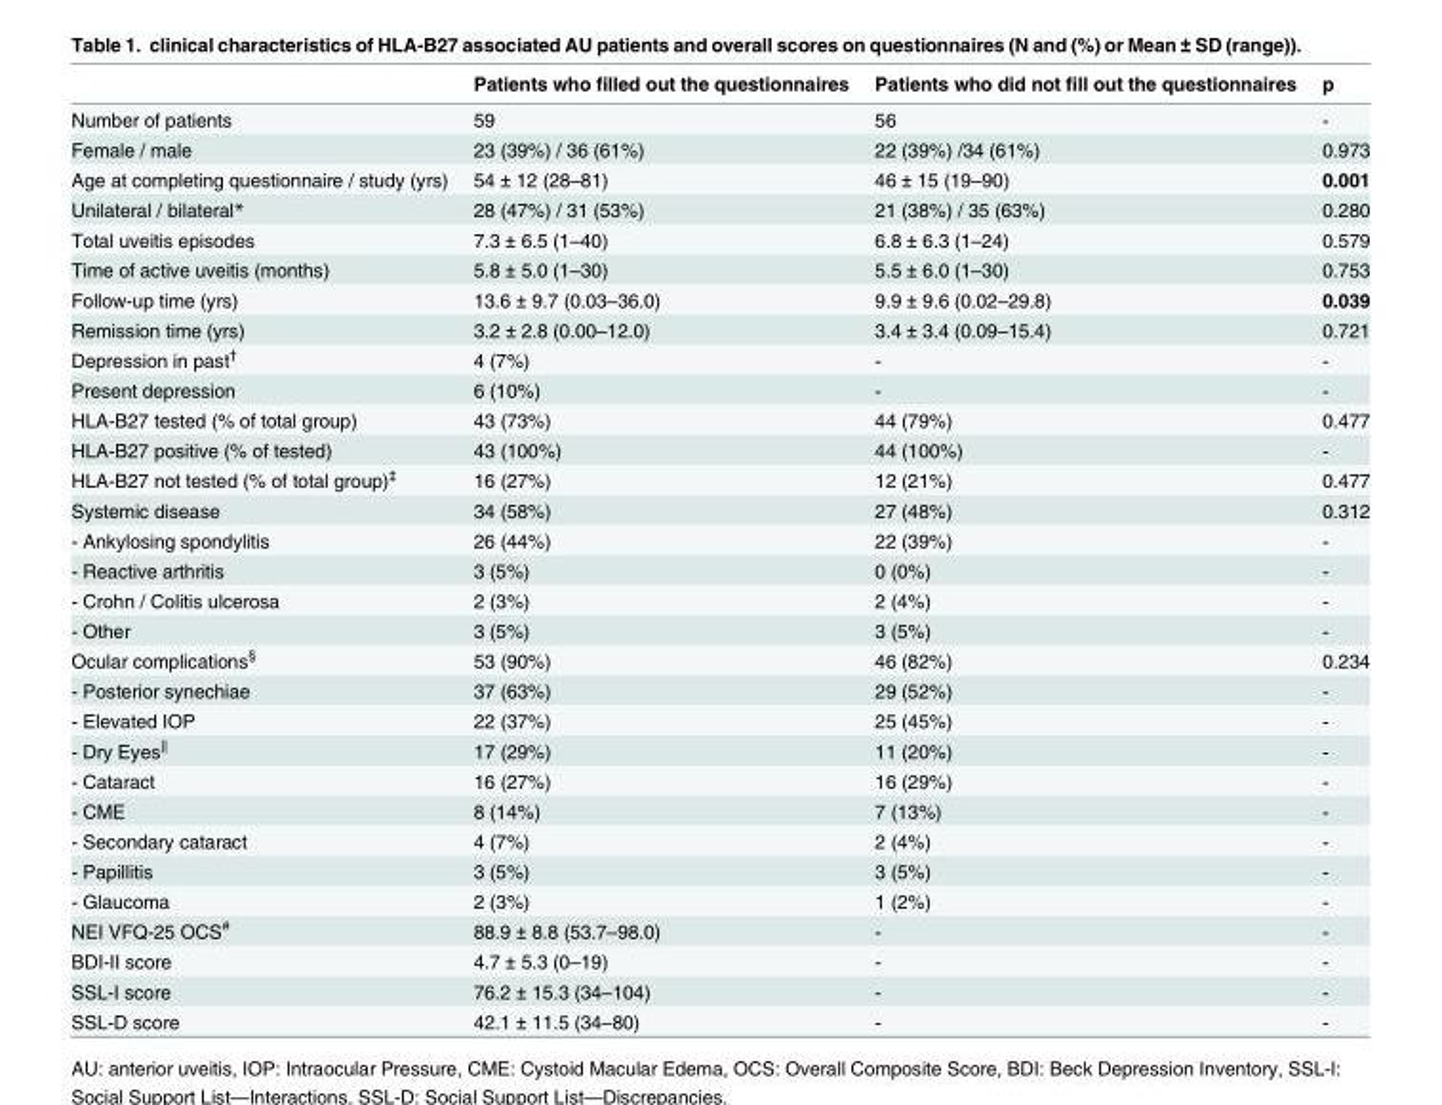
<table><thead><tr><td></td><td>Patients who filled out the questionnaires</td><td>Patients who did not fill out the questionnaires</td><td>p</td></tr></thead><tbody><tr><td>Number of patients</td><td>59</td><td>56</td><td>-</td></tr><tr><td>Female / male</td><td>23 (39%) / 36 (61%)</td><td>22 (39%) /34 (61%)</td><td>0.973</td></tr><tr><td>Age at completing questionnaire / study (yrs)</td><td>54 ± 12 (28–81)</td><td>46 ± 15 (19–90)</td><td>0.001</td></tr><tr><td>Unilateral / bilateral*</td><td>28 (47%) / 31 (53%)</td><td>21 (38%) / 35 (63%)</td><td>0.280</td></tr><tr><td>Total uveitis episodes</td><td>7.3 ± 6.5 (1–40)</td><td>6.8 ± 6.3 (1–24)</td><td>0.579</td></tr><tr><td>Time of active uveitis (months)</td><td>5.8 ± 5.0 (1–30)</td><td>5.5 ± 6.0 (1–30)</td><td>0.753</td></tr><tr><td>Follow-up time (yrs)</td><td>13.6 ± 9.7 (0.03–36.0)</td><td>9.9 ± 9.6 (0.02–29.8)</td><td>0.039</td></tr><tr><td>Remission time (yrs)</td><td>3.2 ± 2.8 (0.00–12.0)</td><td>3.4 ± 3.4 (0.09–15.4)</td><td>0.721</td></tr><tr><td>Depression in past<sup>†</sup></td><td>4 (7%)</td><td>-</td><td>-</td></tr><tr><td>Present depression</td><td>6 (10%)</td><td>-</td><td>-</td></tr><tr><td>HLA-B27 tested (% of total group)</td><td>43 (73%)</td><td>44 (79%)</td><td>0.477</td></tr><tr><td>HLA-B27 positive (% of tested)</td><td>43 (100%)</td><td>44 (100%)</td><td>-</td></tr><tr><td>HLA-B27 not tested (% of total group)<sup>‡</sup></td><td>16 (27%)</td><td>12 (21%)</td><td>0.477</td></tr><tr><td>Systemic disease</td><td>34 (58%)</td><td>27 (48%)</td><td>0.312</td></tr><tr><td>- Ankylosing spondylitis</td><td>26 (44%)</td><td>22 (39%)</td><td>-</td></tr><tr><td>- Reactive arthritis</td><td>3 (5%)</td><td>0 (0%)</td><td>-</td></tr><tr><td>- Crohn / Colitis ulcerosa</td><td>2 (3%)</td><td>2 (4%)</td><td>-</td></tr><tr><td>- Other</td><td>3 (5%)</td><td>3 (5%)</td><td>-</td></tr><tr><td>Ocular complications<sup>§</sup></td><td>53 (90%)</td><td>46 (82%)</td><td>0.234</td></tr><tr><td>- Posterior synechiae</td><td>37 (63%)</td><td>29 (52%)</td><td>-</td></tr><tr><td>- Elevated IOP</td><td>22 (37%)</td><td>25 (45%)</td><td>-</td></tr><tr><td>- Dry Eyes<sup>||</sup></td><td>17 (29%)</td><td>11 (20%)</td><td>-</td></tr><tr><td>- Cataract</td><td>16 (27%)</td><td>16 (29%)</td><td>-</td></tr><tr><td>- CME</td><td>8 (14%)</td><td>7 (13%)</td><td>-</td></tr><tr><td>- Secondary cataract</td><td>4 (7%)</td><td>2 (4%)</td><td>-</td></tr><tr><td>- Papillitis</td><td>3 (5%)</td><td>3 (5%)</td><td>-</td></tr><tr><td>- Glaucoma</td><td>2 (3%)</td><td>1 (2%)</td><td>-</td></tr><tr><td>NEI VFQ-25 OCS<sup>#</sup></td><td>88.9 ± 8.8 (53.7–98.0)</td><td>-</td><td>-</td></tr><tr><td>BDI-II score</td><td>4.7 ± 5.3 (0–19)</td><td>-</td><td>-</td></tr><tr><td>SSL-I score</td><td>76.2 ± 15.3 (34–104)</td><td>-</td><td>-</td></tr><tr><td>SSL-D score</td><td>42.1 ± 11.5 (34–80)</td><td>-</td><td>-</td></tr></tbody></table>